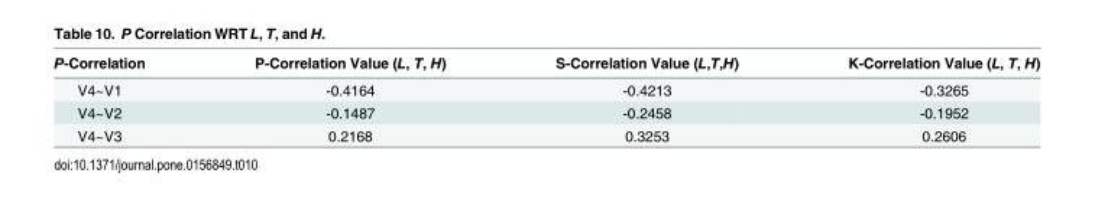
<table><thead><tr><td>P-Correlation</td><td>P-Correlation Value (L, T, H)</td><td>S-Correlation Value (L,T,H)</td><td>K-Correlation Value (L, T, H)</td></tr></thead><tbody><tr><td>V4~V1</td><td>-0.4164</td><td>-0.4213</td><td>-0.3265</td></tr><tr><td>V4~V2</td><td>-0.1487</td><td>-0.2458</td><td>-0.1952</td></tr><tr><td>V4~V3</td><td>0.2168</td><td>0.3253</td><td>0.2606</td></tr></tbody></table>